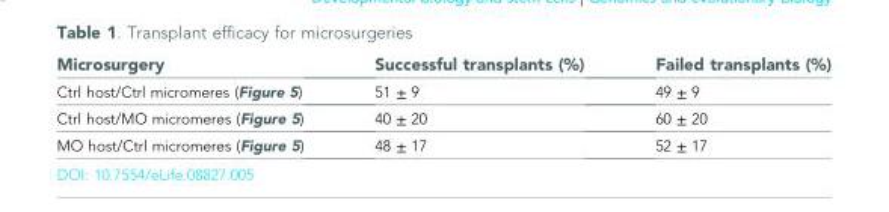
<table><thead><tr><td>Microsurgery</td><td>Successful transplants (%)</td><td>Failed transplants (%)</td></tr></thead><tbody><tr><td>Ctrl host/Ctrl micromeres (Figure 5)</td><td>51 ± 9</td><td>49 ± 9</td></tr><tr><td>Ctrl host/MO micromeres (Figure 5)</td><td>40 ± 20</td><td>60 ± 20</td></tr><tr><td>MO host/Ctrl micromeres (Figure 5)</td><td>48 ± 17</td><td>52 ± 17</td></tr></tbody></table>